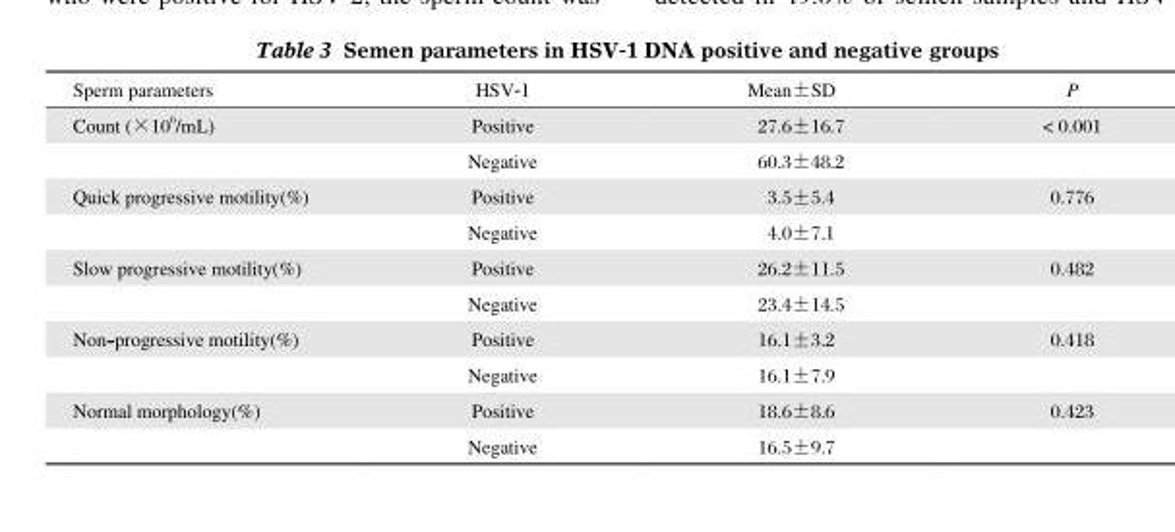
<table><thead><tr><td>Sperm parameters</td><td>HSV-1</td><td>Mean±SD</td><td>P</td></tr></thead><tbody><tr><td rowspan="2">Count (×10 <sup>6</sup>/mL)</td><td>Positive</td><td>0027.6±16.7</td><td>&lt; 0.001</td></tr><tr><td>Negative</td><td>0060.3±48.2</td><td></td></tr><tr><td rowspan="2">Quick progressive motility(%)</td><td>Positive</td><td>003.5±5.4</td><td>0.776</td></tr><tr><td>Negative</td><td>004.0±7.1</td><td></td></tr><tr><td rowspan="2">Slow progressive motility(%)</td><td>Positive</td><td>0026.2±11.5</td><td>0.482</td></tr><tr><td>Negative</td><td>0023.4±14.5</td><td></td></tr><tr><td rowspan="2">Non-progressive motility(%)</td><td>Positive</td><td>016.1±3.2</td><td>0.418</td></tr><tr><td>Negative</td><td>016.1±7.9</td><td></td></tr><tr><td rowspan="2">Normal morphology(%)</td><td>Positive</td><td>018.6±8.6</td><td>0.423</td></tr><tr><td>Negative</td><td>016.5±9.7</td><td></td></tr></tbody></table>